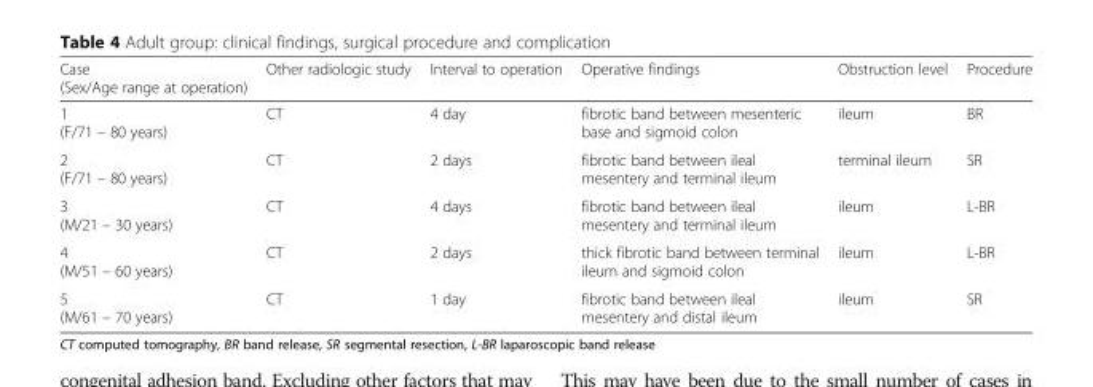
<table><thead><tr><td>Case (Sex/Age range at operation)</td><td>Other radiologic study</td><td>Interval to operation</td><td>Operative findings</td><td>Obstruction level</td><td>Procedure</td></tr></thead><tbody><tr><td>1 (F/71 – 80 years)</td><td>CT</td><td>4 day</td><td>fibrotic band between mesenteric base and sigmoid colon</td><td>ileum</td><td>BR</td></tr><tr><td>2 (F/71 – 80 years)</td><td>CT</td><td>2 days</td><td>fibrotic band between ileal mesentery and terminal ileum</td><td>terminal ileum</td><td>SR</td></tr><tr><td>3 (M/21 – 30 years)</td><td>CT</td><td>4 days</td><td>fibrotic band between ileal mesentery and terminal ileum</td><td>ileum</td><td>L-BR</td></tr><tr><td>4 (M/51 – 60 years)</td><td>CT</td><td>2 days</td><td>thick fibrotic band between terminal ileum and sigmoid colon</td><td>ileum</td><td>L-BR</td></tr><tr><td>5 (M/61 – 70 years)</td><td>CT</td><td>1 day</td><td>fibrotic band between ileal mesentery and distal ileum</td><td>ileum</td><td>SR</td></tr></tbody></table>